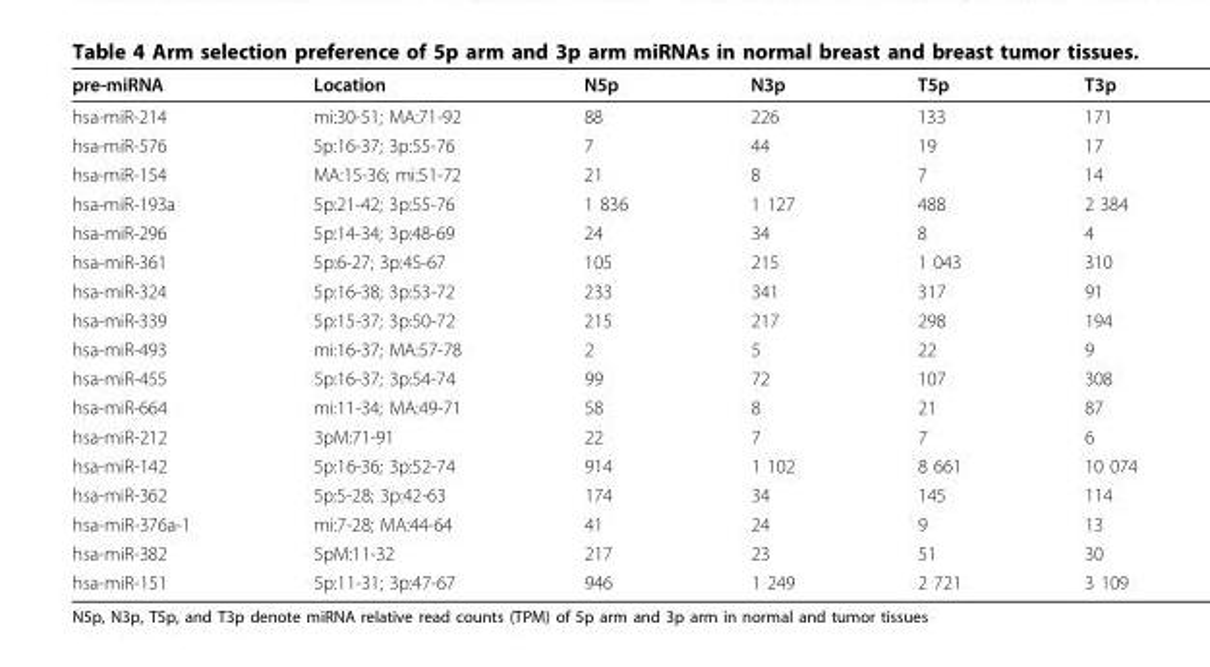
<table><thead><tr><td>pre-miRNA</td><td>Location</td><td>N5p</td><td>N3p</td><td>T5p</td><td>T3p</td></tr></thead><tbody><tr><td>hsa-miR-214</td><td>mi:30-51; MA:71-92</td><td>88</td><td>226</td><td>133</td><td>171</td></tr><tr><td>hsa-miR-576</td><td>5p:16-37; 3p:55-76</td><td>7</td><td>44</td><td>19</td><td>17</td></tr><tr><td>hsa-miR-154</td><td>MA:15-36; mi:51-72</td><td>21</td><td>8</td><td>7</td><td>14</td></tr><tr><td>hsa-miR-193a</td><td>5p:21-42; 3p:55-76</td><td>1 836</td><td>1 127</td><td>488</td><td>2 384</td></tr><tr><td>hsa-miR-296</td><td>5p:14-34; 3p:48-69</td><td>24</td><td>34</td><td>8</td><td>4</td></tr><tr><td>hsa-miR-361</td><td>5p:6-27; 3p:45-67</td><td>105</td><td>215</td><td>1 043</td><td>310</td></tr><tr><td>hsa-miR-324</td><td>5p:16-38; 3p:53-72</td><td>233</td><td>341</td><td>317</td><td>91</td></tr><tr><td>hsa-miR-339</td><td>5p:15-37; 3p:50-72</td><td>215</td><td>217</td><td>298</td><td>194</td></tr><tr><td>hsa-miR-493</td><td>mi:16-37; MA:57-78</td><td>2</td><td>5</td><td>22</td><td>9</td></tr><tr><td>hsa-miR-455</td><td>5p:16-37; 3p:54-74</td><td>99</td><td>72</td><td>107</td><td>308</td></tr><tr><td>hsa-miR-664</td><td>mi:11-34; MA:49-71</td><td>58</td><td>8</td><td>21</td><td>87</td></tr><tr><td>hsa-miR-212</td><td>3pM:71-91</td><td>22</td><td>7</td><td>7</td><td>6</td></tr><tr><td>hsa-miR-142</td><td>5p:16-36; 3p:52-74</td><td>914</td><td>1 102</td><td>8 661</td><td>10 074</td></tr><tr><td>hsa-miR-362</td><td>5p:5-28; 3p:42-63</td><td>174</td><td>34</td><td>145</td><td>114</td></tr><tr><td>hsa-miR-376a-1</td><td>mi:7-28; MA:44-64</td><td>41</td><td>24</td><td>9</td><td>13</td></tr><tr><td>hsa-miR-382</td><td>5pM:11-32</td><td>217</td><td>23</td><td>51</td><td>30</td></tr><tr><td>hsa-miR-151</td><td>5p:11-31; 3p:47-67</td><td>946</td><td>1 249</td><td>2 721</td><td>3 109</td></tr></tbody></table>